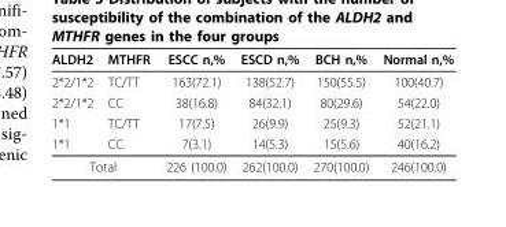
<table><thead><tr><td>ALDH2</td><td>MTHFR</td><td>ESCC n,%</td><td>ESCD n,%</td><td>BCH n,%</td><td>Normal n,%</td></tr></thead><tbody><tr><td>2*2/1*2</td><td>TC/TT</td><td>163(72.1)</td><td>138(52.7)</td><td>150(55.5)</td><td>100(40.7)</td></tr><tr><td>2*2/1*2</td><td>CC</td><td>38(16.8)</td><td>84(32.1)</td><td>80(29.6)</td><td>54(22.0)</td></tr><tr><td>1*1</td><td>TC/TT</td><td>17(7.5)</td><td>26(9.9)</td><td>25(9.3)</td><td>52(21.1)</td></tr><tr><td>1*1</td><td>CC</td><td>7(3.1)</td><td>14(5.3)</td><td>15(5.6)</td><td>40(16.2)</td></tr><tr><td colspan="2">Total</td><td>226 (100.0)</td><td>262(100.0)</td><td>270(100.0)</td><td>246(100.0)</td></tr></tbody></table>